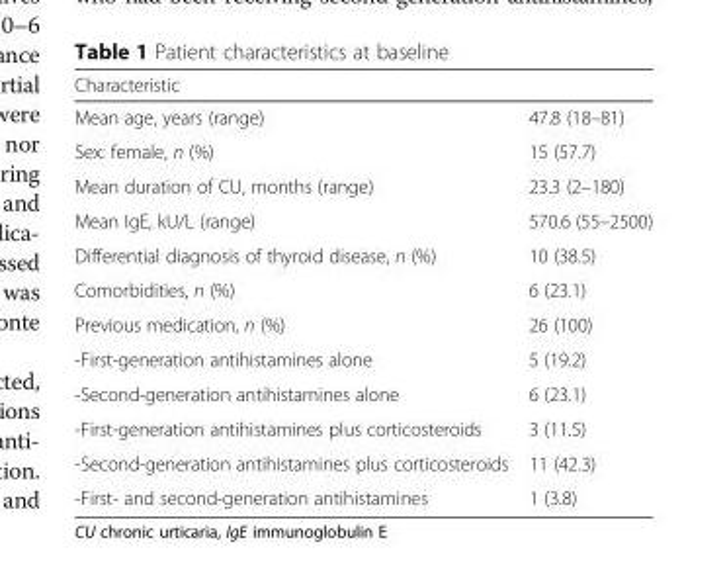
<table><thead><tr><td colspan="2">Characteristic</td></tr><tr><td>Mean age, years (range)</td><td>47.8 (18–81)</td></tr></thead><tbody><tr><td>Sex: female, n (%)</td><td>15 (57.7)</td></tr><tr><td>Mean duration of CU, months (range)</td><td>23.3 (2–180)</td></tr><tr><td>Mean IgE, kU/L (range)</td><td>570.6 (55–2500)</td></tr><tr><td>Differential diagnosis of thyroid disease, n (%)</td><td>10 (38.5)</td></tr><tr><td>Comorbidities, n (%)</td><td>6 (23.1)</td></tr><tr><td>Previous medication, n (%)</td><td>26 (100)</td></tr><tr><td>-First-generation antihistamines alone</td><td>5 (19.2)</td></tr><tr><td>-Second-generation antihistamines alone</td><td>6 (23.1)</td></tr><tr><td>-First-generation antihistamines plus corticosteroids</td><td>3 (11.5)</td></tr><tr><td>-Second-generation antihistamines plus corticosteroids</td><td>11 (42.3)</td></tr><tr><td>-First- and second-generation antihistamines</td><td>1 (3.8)</td></tr></tbody></table>